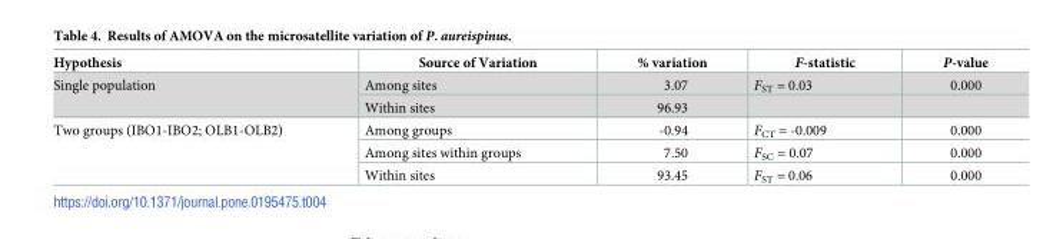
<table><thead><tr><td>Hypothesis</td><td>Source of Variation</td><td>% variation</td><td>F-statistic</td><td>P-value</td></tr></thead><tbody><tr><td rowspan="2">Single population</td><td>Among sites</td><td>3.07</td><td>F<sub>ST</sub> = 0.03</td><td>0.000</td></tr><tr><td>Within sites</td><td>96.93</td><td></td><td></td></tr><tr><td rowspan="3">Two groups (IBO1-IBO2; OLB1-OLB2)</td><td>Among groups</td><td>-0.94</td><td>F<sub>CT</sub> = -0.009</td><td>0.000</td></tr><tr><td>Among sites within groups</td><td>7.50</td><td>F<sub>SC</sub> = 0.07</td><td>0.000</td></tr><tr><td>Within sites</td><td>93.45</td><td>F<sub>ST</sub> = 0.06</td><td>0.000</td></tr></tbody></table>